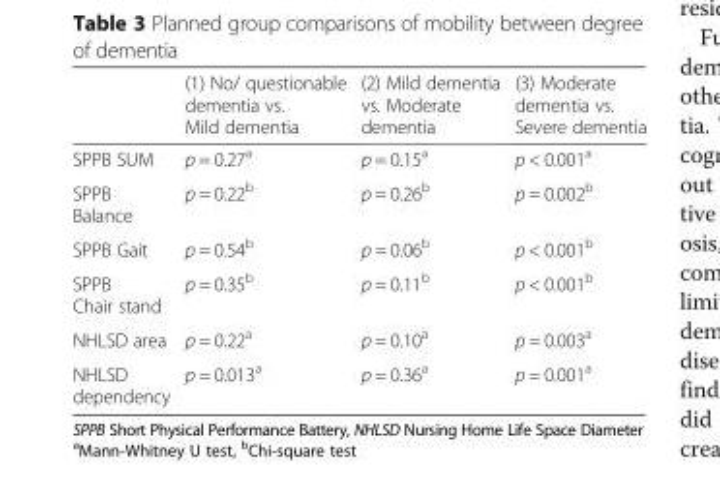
<table><thead><tr><td></td><td>(1) No/ questionable dementia vs. Mild dementia</td><td>(2) Mild dementia vs. Moderate dementia</td><td>(3) Moderate dementia vs. Severe dementia</td></tr></thead><tbody><tr><td>SPPB SUM</td><td>p = 0.27<sup>a</sup></td><td>p = 0.15<sup>a</sup></td><td>p &lt; 0.001<sup>a</sup></td></tr><tr><td>SPPB Balance</td><td>p = 0.22<sup>b</sup></td><td>p = 0.26<sup>b</sup></td><td>p = 0.002<sup>b</sup></td></tr><tr><td>SPPB Gait</td><td>p = 0.54<sup>b</sup></td><td>p = 0.06<sup>b</sup></td><td>p &lt; 0.001<sup>b</sup></td></tr><tr><td>SPPB Chair stand</td><td>p = 0.35<sup>b</sup></td><td>p = 0.11<sup>b</sup></td><td>p &lt; 0.001<sup>b</sup></td></tr><tr><td>NHLSD area</td><td>p = 0.22<sup>a</sup></td><td>p = 0.10<sup>a</sup></td><td>p = 0.003<sup>a</sup></td></tr><tr><td>NHLSD dependency</td><td>p = 0.013<sup>a</sup></td><td>p = 0.36<sup>a</sup></td><td>p = 0.001<sup>a</sup></td></tr></tbody></table>